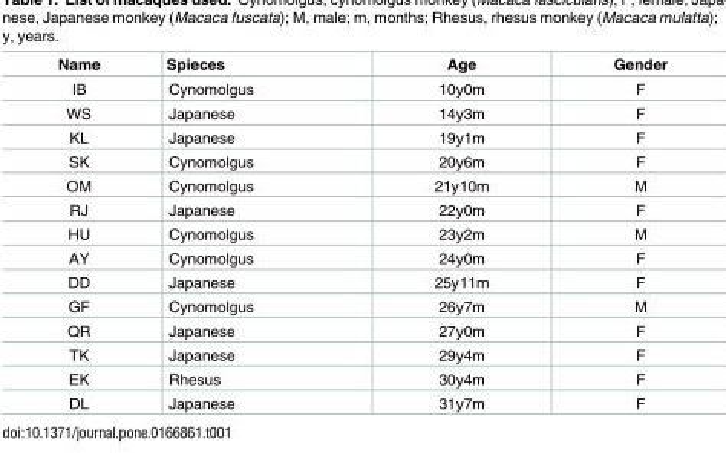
<table><thead><tr><td>Name</td><td>Spieces</td><td>Age</td><td>Gender</td></tr></thead><tbody><tr><td>IB</td><td>Cynomolgus</td><td>10y0m</td><td>F</td></tr><tr><td>WS</td><td>Japanese</td><td>14y3m</td><td>F</td></tr><tr><td>KL</td><td>Japanese</td><td>19y1m</td><td>F</td></tr><tr><td>SK</td><td>Cynomolgus</td><td>20y6m</td><td>F</td></tr><tr><td>OM</td><td>Cynomolgus</td><td>21y10m</td><td>M</td></tr><tr><td>RJ</td><td>Japanese</td><td>22y0m</td><td>F</td></tr><tr><td>HU</td><td>Cynomolgus</td><td>23y2m</td><td>M</td></tr><tr><td>AY</td><td>Cynomolgus</td><td>24y0m</td><td>F</td></tr><tr><td>DD</td><td>Japanese</td><td>25y11m</td><td>F</td></tr><tr><td>GF</td><td>Cynomolgus</td><td>26y7m</td><td>M</td></tr><tr><td>QR</td><td>Japanese</td><td>27y0m</td><td>F</td></tr><tr><td>TK</td><td>Japanese</td><td>29y4m</td><td>F</td></tr><tr><td>EK</td><td>Rhesus</td><td>30y4m</td><td>F</td></tr><tr><td>DL</td><td>Japanese</td><td>31y7m</td><td>F</td></tr></tbody></table>